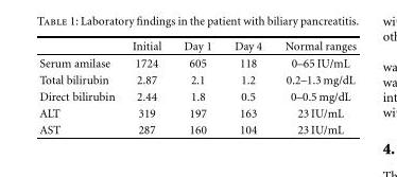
<table><thead><tr><td></td><td>Initial</td><td>Day 1</td><td>Day 4</td><td>Normal ranges</td></tr></thead><tbody><tr><td>Serum amilase</td><td>1724</td><td>605</td><td>118</td><td>0–65 IU/mL</td></tr><tr><td>Total bilirubin</td><td>2.87</td><td>2.1</td><td>1.2</td><td>0.2–1.3 mg/dL</td></tr><tr><td>Direct bilirubin</td><td>2.44</td><td>1.8</td><td>0.5</td><td>0–0.5 mg/dL</td></tr><tr><td>ALT</td><td>319</td><td>197</td><td>163</td><td>23 IU/mL</td></tr><tr><td>AST</td><td>287</td><td>160</td><td>104</td><td>23 IU/mL</td></tr></tbody></table>